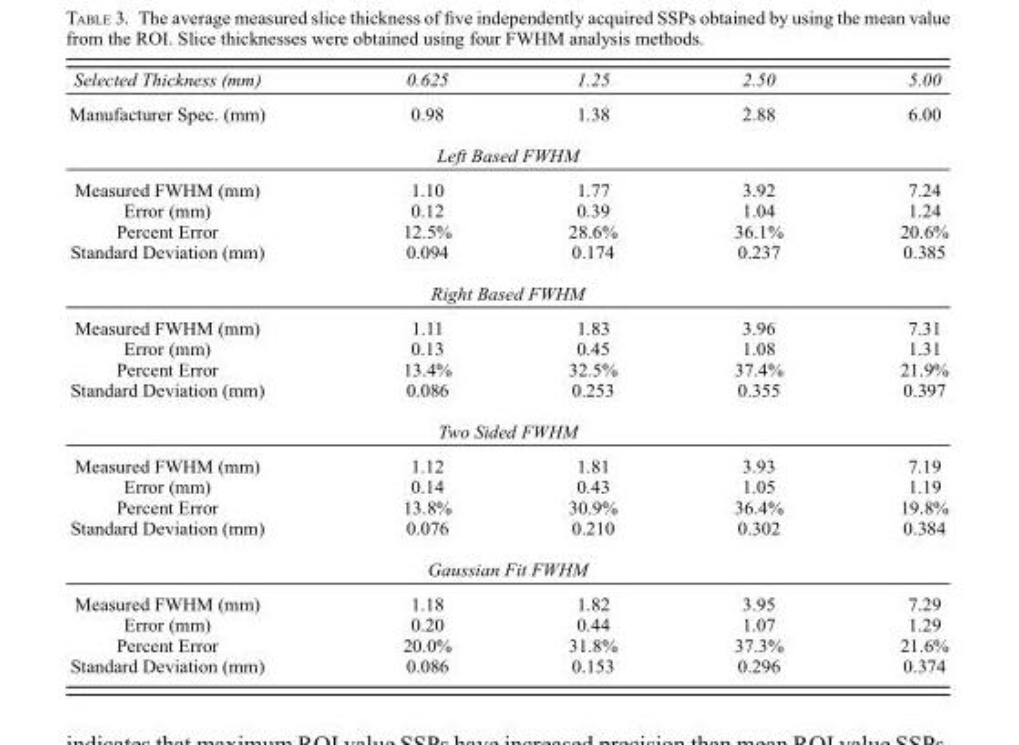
<table><thead><tr><td>Selected Thickness (mm)</td><td>0.625</td><td>1.25</td><td>2.50</td><td>5.00</td></tr></thead><tbody><tr><td rowspan="2">Manufacturer Spec. (mm)</td><td>0.98</td><td>1.38</td><td>2.88</td><td>6.00</td></tr><tr><td colspan="2">Left Based FWHM</td><td></td><td></td></tr><tr><td>Measured FWHM (mm)</td><td>1.10</td><td>1.77</td><td>3.92</td><td>7.24</td></tr><tr><td>Error (mm)</td><td>0.12</td><td>0.39</td><td>1.04</td><td>1.24</td></tr><tr><td>Percent Error</td><td>12.5%</td><td>28.6%</td><td>36.1%</td><td>20.6%</td></tr><tr><td rowspan="2">Standard Deviation (mm)</td><td>0.094</td><td>0.174</td><td>0.237</td><td>0.385</td></tr><tr><td colspan="2">Right Based FWHM</td><td></td><td></td></tr><tr><td>Measured FWHM (mm)</td><td>1.11</td><td>1.83</td><td>3.96</td><td>7.31</td></tr><tr><td>Error (mm)</td><td>0.13</td><td>0.45</td><td>1.08</td><td>1.31</td></tr><tr><td>Percent Error</td><td>13.4%</td><td>32.5%</td><td>37.4%</td><td>21.9%</td></tr><tr><td rowspan="2">Standard Deviation (mm)</td><td>0.086</td><td>0.253</td><td>0.355</td><td>0.397</td></tr><tr><td colspan="2">Two Sided FWHM</td><td></td><td></td></tr><tr><td>Measured FWHM (mm)</td><td>1.12</td><td>1.81</td><td>3.93</td><td>7.19</td></tr><tr><td>Error (mm)</td><td>0.14</td><td>0.43</td><td>1.05</td><td>1.19</td></tr><tr><td>Percent Error</td><td>13.8%</td><td>30.9%</td><td>36.4%</td><td>19.8%</td></tr><tr><td rowspan="2">Standard Deviation (mm)</td><td>0.076</td><td>0.210</td><td>0.302</td><td>0.384</td></tr><tr><td colspan="2">Gaussian Fit FWHM</td><td></td><td></td></tr><tr><td>Measured FWHM (mm)</td><td>1.18</td><td>1.82</td><td>3.95</td><td>7.29</td></tr><tr><td>Error (mm)</td><td>0.20</td><td>0.44</td><td>1.07</td><td>1.29</td></tr><tr><td>Percent Error</td><td>20.0%</td><td>31.8%</td><td>37.3%</td><td>21.6%</td></tr><tr><td>Standard Deviation (mm)</td><td>0.086</td><td>0.153</td><td>0.296</td><td>0.374</td></tr></tbody></table>